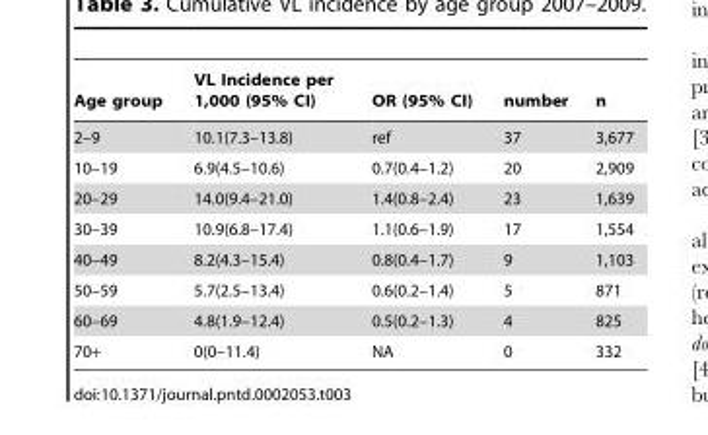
<table><thead><tr><td>Age group</td><td>VL Incidence per 1,000 (95% CI)</td><td>OR (95% CI)</td><td>number</td><td>n</td></tr></thead><tbody><tr><td>2–9</td><td>10.1(7.3–13.8)</td><td>ref</td><td>37</td><td>3,677</td></tr><tr><td>10–19</td><td>6.9(4.5–10.6)</td><td>0.7(0.4–1.2)</td><td>20</td><td>2,909</td></tr><tr><td>20–29</td><td>14.0(9.4–21.0)</td><td>1.4(0.8–2.4)</td><td>23</td><td>1,639</td></tr><tr><td>30–39</td><td>10.9(6.8–17.4)</td><td>1.1(0.6–1.9)</td><td>17</td><td>1,554</td></tr><tr><td>40–49</td><td>8.2(4.3–15.4)</td><td>0.8(0.4–1.7)</td><td>9</td><td>1,103</td></tr><tr><td>50–59</td><td>5.7(2.5–13.4)</td><td>0.6(0.2–1.4)</td><td>5</td><td>871</td></tr><tr><td>60–69</td><td>4.8(1.9–12.4)</td><td>0.5(0.2–1.3)</td><td>4</td><td>825</td></tr><tr><td>70+</td><td>0(0–11.4)</td><td>NA</td><td>0</td><td>332</td></tr></tbody></table>